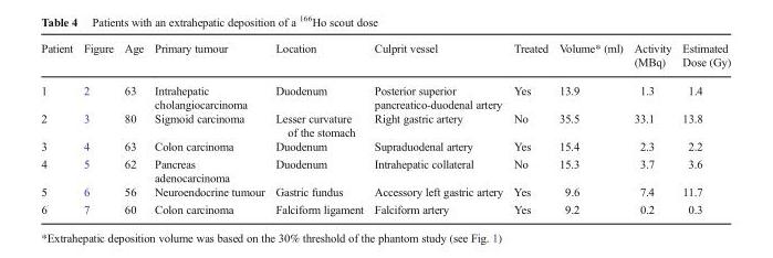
<table><thead><tr><td>Patient</td><td>Figure</td><td>Age</td><td>Primary tumour</td><td>Location</td><td>Culprit vessel</td><td>Treated</td><td>Volume* (ml)</td><td>Activity (MBq)</td><td>Estimated Dose (Gy)</td></tr></thead><tbody><tr><td>1</td><td>2</td><td>63</td><td>Intrahepatic cholangiocarcinoma</td><td>Duodenum</td><td>Posterior superior pancreatico-duodenal artery</td><td>Yes</td><td>13.9</td><td>1.3</td><td>1.4</td></tr><tr><td>2</td><td>3</td><td>80</td><td>Sigmoid carcinoma</td><td>Lesser curvature of the stomach</td><td>Right gastric artery</td><td>No</td><td>35.5</td><td>33.1</td><td>13.8</td></tr><tr><td>3</td><td>4</td><td>63</td><td>Colon carcinoma</td><td>Duodenum</td><td>Supraduodenal artery</td><td>Yes</td><td>15.4</td><td>2.3</td><td>2.2</td></tr><tr><td>4</td><td>5</td><td>62</td><td>Pancreas adenocarcinoma</td><td>Duodenum</td><td>Intrahepatic collateral</td><td>No</td><td>15.3</td><td>3.7</td><td>3.6</td></tr><tr><td>5</td><td>6</td><td>56</td><td>Neuroendocrine tumour</td><td>Gastric fundus</td><td>Accessory left gastric artery</td><td>Yes</td><td>9.6</td><td>7.4</td><td>11.7</td></tr><tr><td>6</td><td>7</td><td>60</td><td>Colon carcinoma</td><td>Falciform ligament</td><td>Falciform artery</td><td>Yes</td><td>9.2</td><td>0.2</td><td>0.3</td></tr></tbody></table>